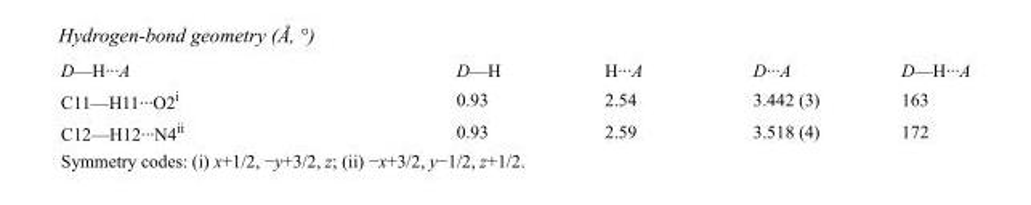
<table><tbody><tr><td>D—H···A</td><td>D—H</td><td>H···A</td><td>D···A</td><td>D—H···A</td></tr><tr><td>C11—H11···O2<sup>i</sup></td><td>0.93</td><td>2.54</td><td>3.442 (3)</td><td>163</td></tr><tr><td>C12—H12···N4<sup>ii</sup></td><td>0.93</td><td>2.59</td><td>3.518 (4)</td><td>172</td></tr></tbody></table>